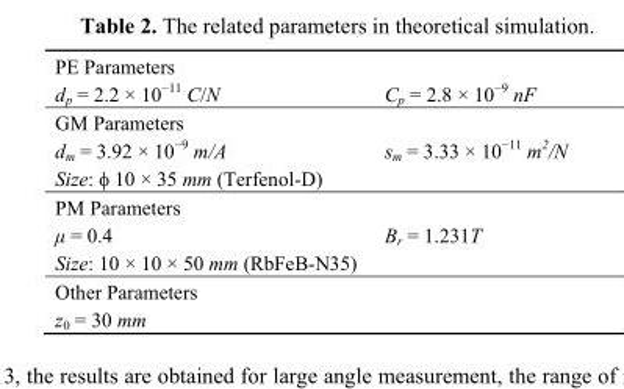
<table><tbody><tr><td colspan="2">PE Parameters</td></tr><tr><td>dp = 2.2 × 10−11 C/N</td><td>Cp = 2.8 × 10−9 nF</td></tr><tr><td colspan="2">GM Parameters</td></tr><tr><td>dm = 3.92 × 10−9 m/A</td><td>sm = 3.33 × 10−11 m2/N</td></tr><tr><td colspan="2">Size: 10 × 35 mm (Terfenol-D)</td></tr><tr><td colspan="2">PM Parameters</td></tr><tr><td>μ = 0.4</td><td>Br = 1.231T</td></tr><tr><td colspan="2">Size: 10 × 10 × 50 mm (RbFeB-N35)</td></tr><tr><td colspan="2">Other Parameters</td></tr><tr><td>z0 = 30 mm</td><td></td></tr></tbody></table>